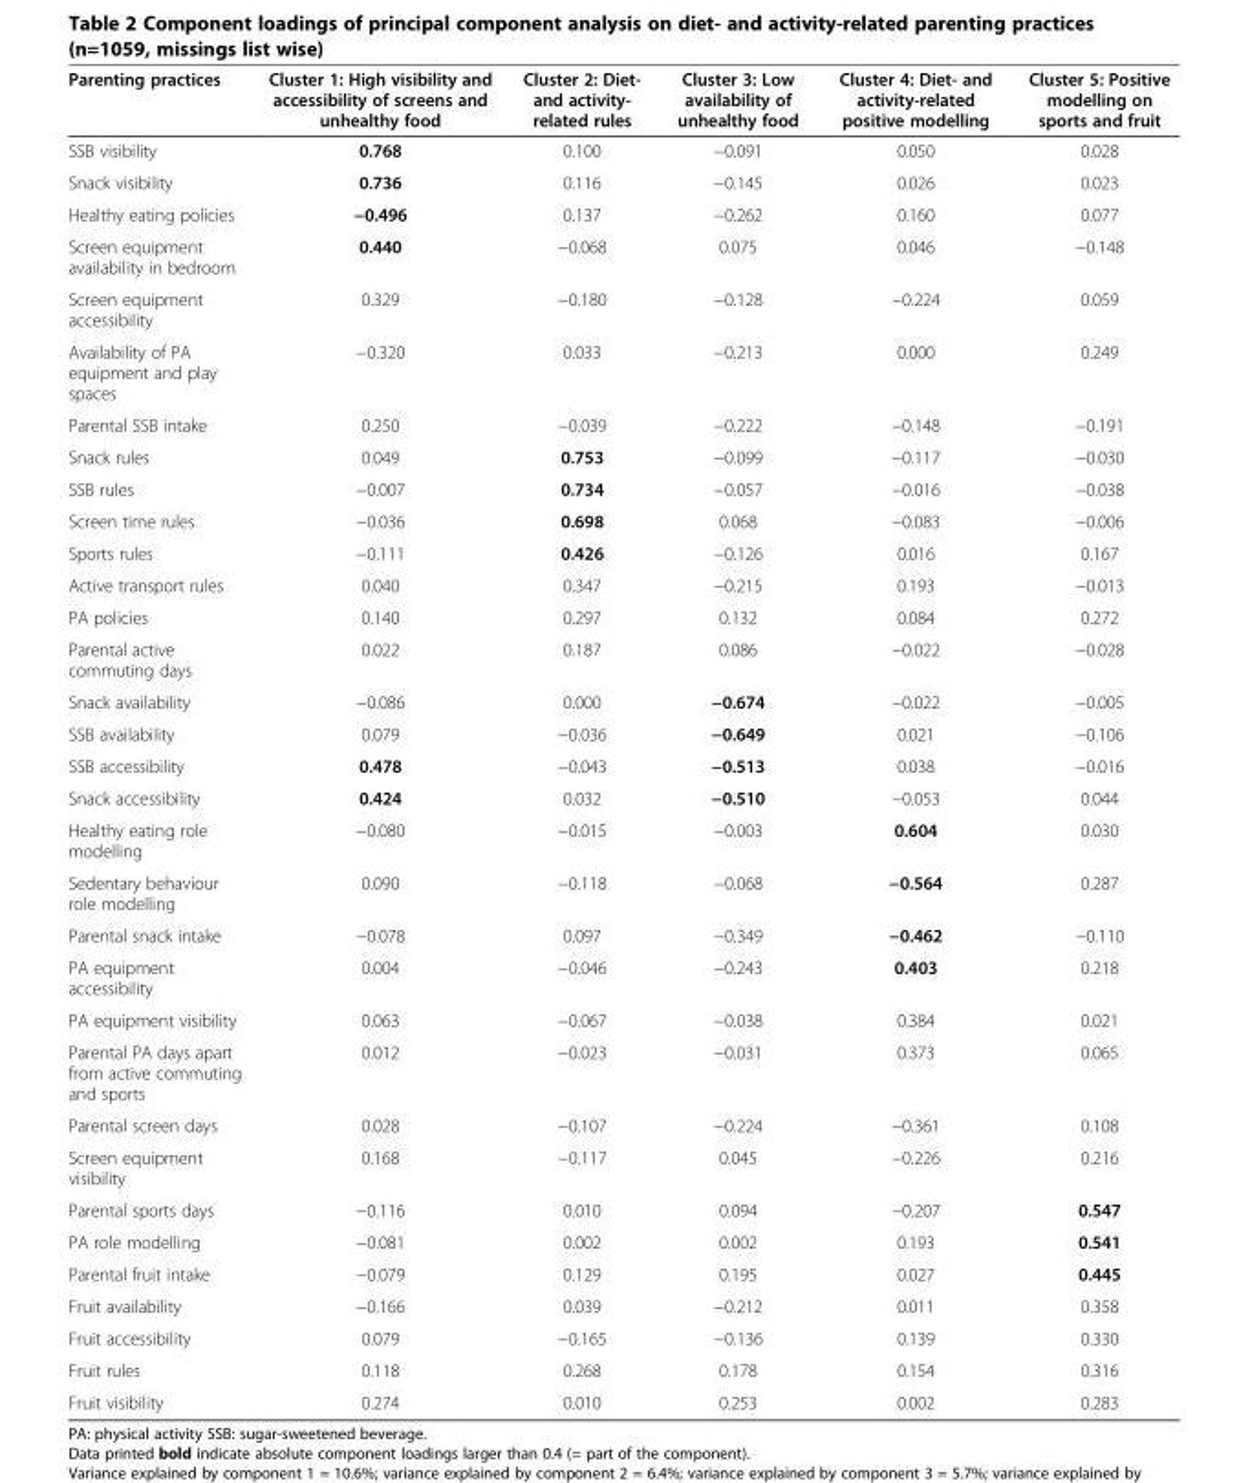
<table><thead><tr><td>Parenting practices</td><td>Cluster 1: High visibility and accessibility of screens and unhealthy food</td><td>Cluster 2: Diet- and activity- related rules</td><td>Cluster 3: Low availability of unhealthy food</td><td>Cluster 4: Diet- and activity-related positive modelling</td><td>Cluster 5: Positive modelling on sports and fruit</td></tr></thead><tbody><tr><td>SSB visibility</td><td>0.768</td><td>0.100</td><td>−0.091</td><td>0.050</td><td>0.028</td></tr><tr><td>Snack visibility</td><td>0.736</td><td>0.116</td><td>−0.145</td><td>0.026</td><td>0.023</td></tr><tr><td>Healthy eating policies</td><td>−0.496</td><td>0.137</td><td>−0.262</td><td>0.160</td><td>0.077</td></tr><tr><td>Screen equipment availability in bedroom</td><td>0.440</td><td>−0.068</td><td>0.075</td><td>0.046</td><td>−0.148</td></tr><tr><td>Screen equipment accessibility</td><td>0.329</td><td>−0.180</td><td>−0.128</td><td>−0.224</td><td>0.059</td></tr><tr><td>Availability of PA equipment and play spaces</td><td>−0.320</td><td>0.033</td><td>−0.213</td><td>0.000</td><td>0.249</td></tr><tr><td>Parental SSB intake</td><td>0.250</td><td>−0.039</td><td>−0.222</td><td>−0.148</td><td>−0.191</td></tr><tr><td>Snack rules</td><td>0.049</td><td>0.753</td><td>−0.099</td><td>−0.117</td><td>−0.030</td></tr><tr><td>SSB rules</td><td>−0.007</td><td>0.734</td><td>−0.057</td><td>−0.016</td><td>−0.038</td></tr><tr><td>Screen time rules</td><td>−0.036</td><td>0.698</td><td>0.068</td><td>−0.083</td><td>−0.006</td></tr><tr><td>Sports rules</td><td>−0.111</td><td>0.426</td><td>−0.126</td><td>0.016</td><td>0.167</td></tr><tr><td>Active transport rules</td><td>0.040</td><td>0.347</td><td>−0.215</td><td>0.193</td><td>−0.013</td></tr><tr><td>PA policies</td><td>0.140</td><td>0.297</td><td>0.132</td><td>0.084</td><td>0.272</td></tr><tr><td>Parental active commuting days</td><td>0.022</td><td>0.187</td><td>0.086</td><td>−0.022</td><td>−0.028</td></tr><tr><td>Snack availability</td><td>−0.086</td><td>0.000</td><td>−0.674</td><td>−0.022</td><td>−0.005</td></tr><tr><td>SSB availability</td><td>0.079</td><td>−0.036</td><td>−0.649</td><td>0.021</td><td>−0.106</td></tr><tr><td>SSB accessibility</td><td>0.478</td><td>−0.043</td><td>−0.513</td><td>0.038</td><td>−0.016</td></tr><tr><td>Snack accessibility</td><td>0.424</td><td>0.032</td><td>−0.510</td><td>−0.053</td><td>0.044</td></tr><tr><td>Healthy eating role modelling</td><td>−0.080</td><td>−0.015</td><td>−0.003</td><td>0.604</td><td>0.030</td></tr><tr><td>Sedentary behaviour role modelling</td><td>0.090</td><td>−0.118</td><td>−0.068</td><td>−0.564</td><td>0.287</td></tr><tr><td>Parental snack intake</td><td>−0.078</td><td>0.097</td><td>−0.349</td><td>−0.462</td><td>−0.110</td></tr><tr><td>PA equipment accessibility</td><td>0.004</td><td>−0.046</td><td>−0.243</td><td>0.403</td><td>0.218</td></tr><tr><td>PA equipment visibility</td><td>0.063</td><td>−0.067</td><td>−0.038</td><td>0.384</td><td>0.021</td></tr><tr><td>Parental PA days apart from active commuting and sports</td><td>0.012</td><td>−0.023</td><td>−0.031</td><td>0.373</td><td>0.065</td></tr><tr><td>Parental screen days</td><td>0.028</td><td>−0.107</td><td>−0.224</td><td>−0.361</td><td>0.108</td></tr><tr><td>Screen equipment visibility</td><td>0.168</td><td>−0.117</td><td>0.045</td><td>−0.226</td><td>0.216</td></tr><tr><td>Parental sports days</td><td>−0.116</td><td>0.010</td><td>0.094</td><td>−0.207</td><td>0.547</td></tr><tr><td>PA role modelling</td><td>−0.081</td><td>0.002</td><td>0.002</td><td>0.193</td><td>0.541</td></tr><tr><td>Parental fruit intake</td><td>−0.079</td><td>0.129</td><td>0.195</td><td>0.027</td><td>0.445</td></tr><tr><td>Fruit availability</td><td>−0.166</td><td>0.039</td><td>−0.212</td><td>0.011</td><td>0.358</td></tr><tr><td>Fruit accessibility</td><td>0.079</td><td>−0.165</td><td>−0.136</td><td>0.139</td><td>0.330</td></tr><tr><td>Fruit rules</td><td>0.118</td><td>0.268</td><td>0.178</td><td>0.154</td><td>0.316</td></tr><tr><td>Fruit visibility</td><td>0.274</td><td>0.010</td><td>0.253</td><td>0.002</td><td>0.283</td></tr></tbody></table>